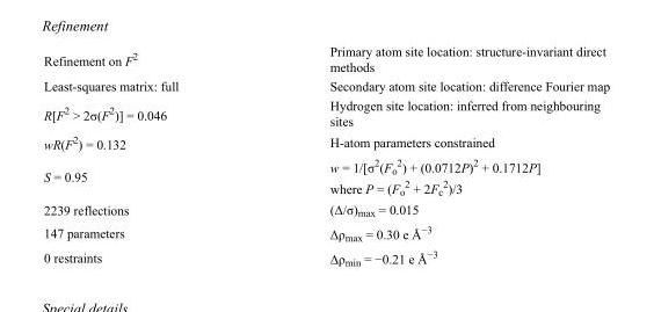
<table><tbody><tr><td>Refinement on F<sup>2</sup></td><td>Primary atom site location: structure-invariant direct methods</td></tr><tr><td>Least-squares matrix: full</td><td>Secondary atom site location: difference Fourier map</td></tr><tr><td>R[F<sup>2</sup> &gt; 2σ(F<sup>2</sup>)] = 0.046</td><td>Hydrogen site location: inferred from neighbouring sites</td></tr><tr><td>wR(F<sup>2</sup>) = 0.132</td><td>H-atom parameters constrained</td></tr><tr><td>S = 0.95</td><td>w = 1/[σ<sup>2</sup>(F<sub>o</sub> <sup>2</sup>) + (0.0712P)<sup>2</sup> + 0.1712P] where P = (F<sub>o</sub> <sup>2</sup> + 2F<sub>c</sub> <sup>2</sup>)/3</td></tr><tr><td>2239 reflections</td><td>(Δ/σ)<sub>max</sub> = 0.015</td></tr><tr><td>147 parameters</td><td>Δρ<sub>max</sub> = 0.30 e Å<sup>−3</sup></td></tr><tr><td>0 restraints</td><td>Δρ<sub>min</sub> = −0.21 e Å<sup>−3</sup></td></tr></tbody></table>